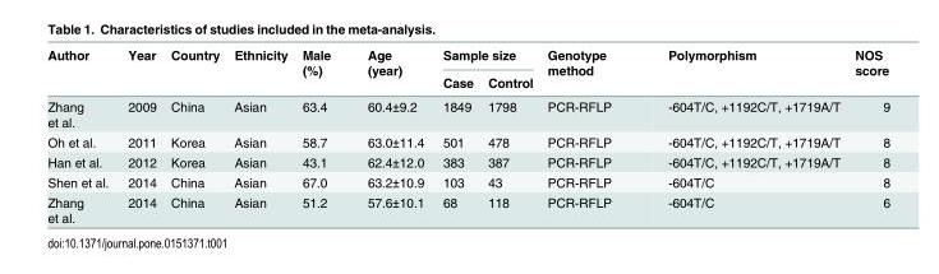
<table><thead><tr><td rowspan="2">Author</td><td rowspan="2">Year</td><td rowspan="2">Country</td><td rowspan="2">Ethnicity</td><td rowspan="2">Male (%)</td><td rowspan="2">Age (year)</td><td colspan="2">Sample size</td><td rowspan="2">Genotype method</td><td rowspan="2">Polymorphism</td><td rowspan="2">NOS score</td></tr><tr><td>Case</td><td>Control</td></tr></thead><tbody><tr><td>Zhang et al.</td><td>2009</td><td>China</td><td>Asian</td><td>63.4</td><td>60.4±9.2</td><td>1849</td><td>1798</td><td>PCR-RFLP</td><td>-604T/C, +1192C/T, +1719A/T</td><td>9</td></tr><tr><td>Oh et al.</td><td>2011</td><td>Korea</td><td>Asian</td><td>58.7</td><td>63.0±11.4</td><td>501</td><td>478</td><td>PCR-RFLP</td><td>-604T/C, +1192C/T, +1719A/T</td><td>8</td></tr><tr><td>Han et al.</td><td>2012</td><td>Korea</td><td>Asian</td><td>43.1</td><td>62.4±12.0</td><td>383</td><td>387</td><td>PCR-RFLP</td><td>-604T/C, +1192C/T, +1719A/T</td><td>8</td></tr><tr><td>Shen et al.</td><td>2014</td><td>China</td><td>Asian</td><td>67.0</td><td>63.2±10.9</td><td>103</td><td>43</td><td>PCR-RFLP</td><td>-604T/C</td><td>8</td></tr><tr><td>Zhang et al.</td><td>2014</td><td>China</td><td>Asian</td><td>51.2</td><td>57.6±10.1</td><td>68</td><td>118</td><td>PCR-RFLP</td><td>-604T/C</td><td>6</td></tr></tbody></table>